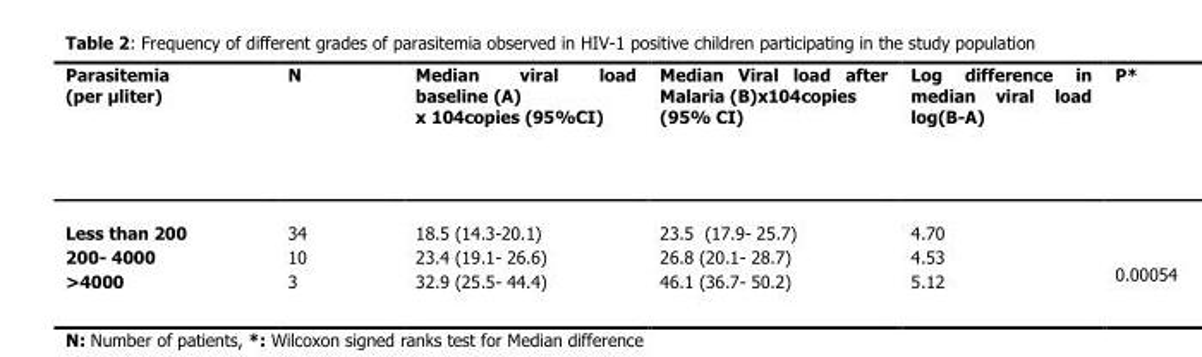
<table><thead><tr><td rowspan="4">Parasitemia (per &lt;liter) Less than 200 200- 4000 &gt;4000</td><td rowspan="4">N 34 10 3</td><td rowspan="4">Median viral load baseline (A) x 104copies (95%CI) 18.5 (14.3-20.1) 23.4 (19.1- 26.6) 32.9 (25.5- 44.4)</td><td rowspan="4">Median Viral load after Malaria (B)x104copies (95% CI) 23.5 (17.9- 25.7) 26.8 (20.1- 28.7) 46.1 (36.7- 50.2)</td><td rowspan="4">Log difference in median viral load log(B-A) 4.70 4.53 5.12</td><td rowspan="4">P*</td></tr><tr></tr><tr></tr><tr></tr></thead><tbody></tbody></table>